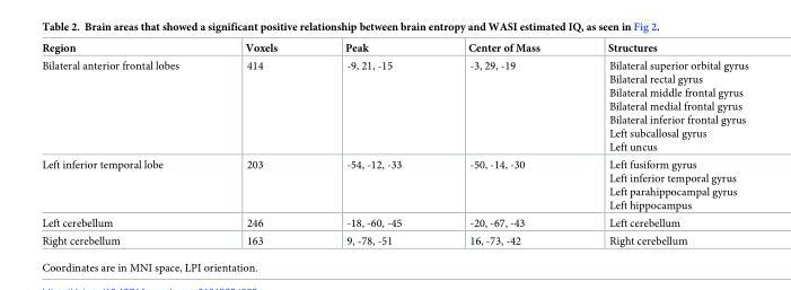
<table><thead><tr><td>Region</td><td>Voxels</td><td>Peak</td><td>Center of Mass</td><td>Structures</td></tr></thead><tbody><tr><td>Bilateral anterior frontal lobes</td><td>414</td><td>-9, 21, -15</td><td>-3, 29, -19</td><td>Bilateral superior orbital gyrus Bilateral rectal gyrus Bilateral middle frontal gyrus Bilateral medial frontal gyrus Bilateral inferior frontal gyrus Left subcallosal gyrus Left uncus</td></tr><tr><td>Left inferior temporal lobe</td><td>203</td><td>-54, -12, -33</td><td>-50, -14, -30</td><td>Left fusiform gyrus Left inferior temporal gyrus Left parahippocampal gyrus Left hippocampus</td></tr><tr><td>Left cerebellum</td><td>246</td><td>-18, -60, -45</td><td>-20, -67, -43</td><td>Left cerebellum</td></tr><tr><td>Right cerebellum</td><td>163</td><td>9, -78, -51</td><td>16, -73, -42</td><td>Right cerebellum</td></tr></tbody></table>